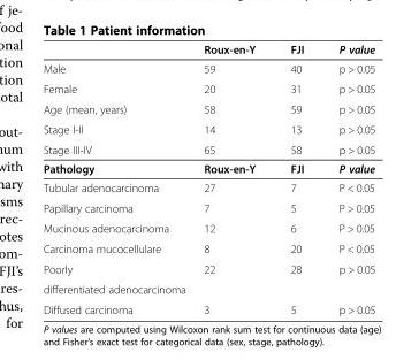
<table><thead><tr><td></td><td>Roux-en-Y</td><td>FJI</td><td>P value</td></tr></thead><tbody><tr><td>Male</td><td>59</td><td>40</td><td>p &gt; 0.05</td></tr><tr><td>Female</td><td>20</td><td>31</td><td>p &gt; 0.05</td></tr><tr><td>Age (mean, years)</td><td>58</td><td>59</td><td>p &gt; 0.05</td></tr><tr><td>Stage I-II</td><td>14</td><td>13</td><td>p &gt; 0.05</td></tr><tr><td>Stage III-IV</td><td>65</td><td>58</td><td>p &gt; 0.05</td></tr><tr><td>Pathology</td><td>Roux-en-Y</td><td>FJI</td><td>P value</td></tr><tr><td>Tubular adenocarcinoma</td><td>27</td><td>7</td><td>P &lt; 0.05</td></tr><tr><td>Papillary carcinoma</td><td>7</td><td>5</td><td>P &gt; 0.05</td></tr><tr><td>Mucinous adenocarcinoma</td><td>12</td><td>6</td><td>P &gt; 0.05</td></tr><tr><td>Carcinoma mucocellulare</td><td>8</td><td>20</td><td>P &lt; 0.05</td></tr><tr><td>Poorly</td><td>22</td><td>28</td><td>p &gt; 0.05</td></tr><tr><td colspan="4">differentiated adenocarcinoma</td></tr><tr><td>Diffused carcinoma</td><td>3</td><td>5</td><td>p &gt; 0.05</td></tr></tbody></table>